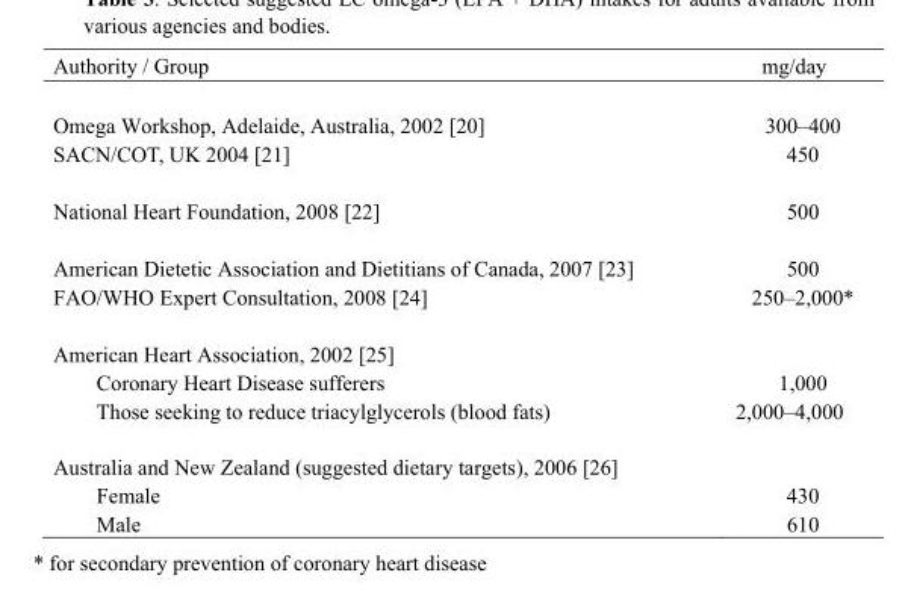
<table><thead><tr><td>Authority / Group</td><td>mg/day</td></tr></thead><tbody><tr><td>Omega Workshop, Adelaide, Australia, 2002 [20]</td><td>300–400</td></tr><tr><td>SACN/COT, UK 2004 [21]</td><td>450</td></tr><tr><td>National Heart Foundation, 2008 [22]</td><td>500</td></tr><tr><td>American Dietetic Association and Dietitians of Canada, 2007 [23]</td><td>500</td></tr><tr><td>FAO/WHO Expert Consultation, 2008 [24]</td><td>250–2,000*</td></tr><tr><td colspan="2">American Heart Association, 2002 [25]</td></tr><tr><td>Coronary Heart Disease sufferers</td><td>1,000</td></tr><tr><td>Those seeking to reduce triacylglycerols (blood fats)</td><td>2,000–4,000</td></tr><tr><td colspan="2">Australia and New Zealand (suggested dietary targets), 2006 [26]</td></tr><tr><td>Female</td><td>430</td></tr><tr><td>Male</td><td>610</td></tr></tbody></table>